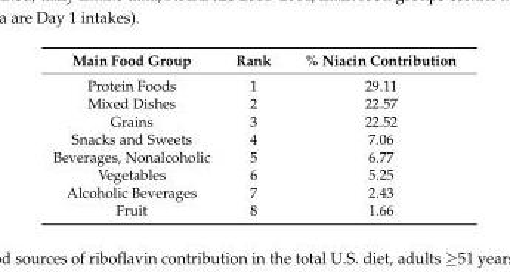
<table><thead><tr><td>Main Food Group</td><td>Rank</td><td>% Niacin Contribution</td></tr></thead><tbody><tr><td>Protein Foods</td><td>1</td><td>29.11</td></tr><tr><td>Mixed Dishes</td><td>2</td><td>22.57</td></tr><tr><td>Grains</td><td>3</td><td>22.52</td></tr><tr><td>Snacks and Sweets</td><td>4</td><td>7.06</td></tr><tr><td>Beverages, Nonalcoholic</td><td>5</td><td>6.77</td></tr><tr><td>Vegetables</td><td>6</td><td>5.25</td></tr><tr><td>Alcoholic Beverages</td><td>7</td><td>2.43</td></tr><tr><td>Fruit</td><td>8</td><td>1.66</td></tr></tbody></table>